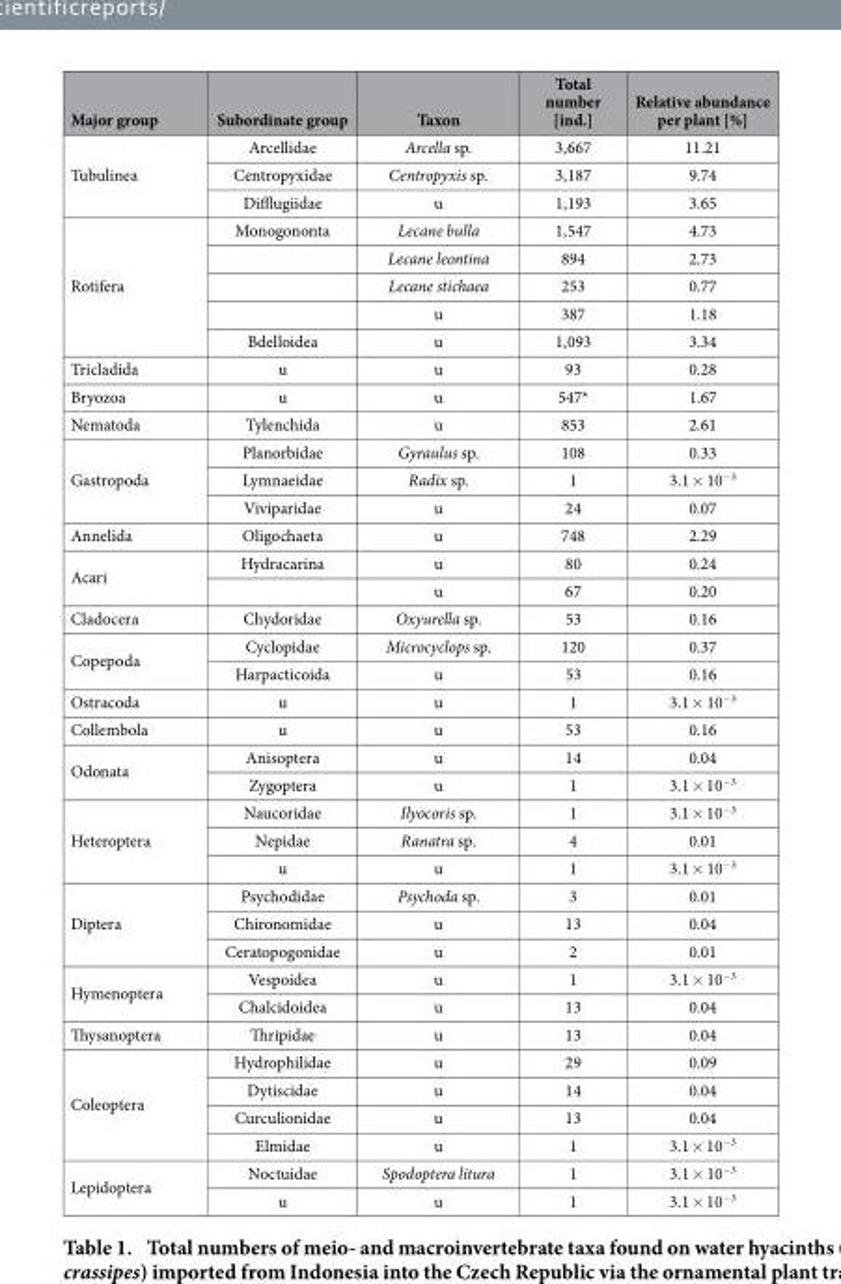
<table><thead><tr><td>Major group</td><td>Subordinate group</td><td>Taxon</td><td>Total number [ind.]</td><td>Relative abundance per plant [%]</td></tr></thead><tbody><tr><td rowspan="3">Tubulinea</td><td>Arcellidae</td><td>Arcella sp.</td><td>3,667</td><td>11.21</td></tr><tr><td>Centropyxidae</td><td>Centropyxis sp.</td><td>3,187</td><td>9.74</td></tr><tr><td>Difflugiidae</td><td>u</td><td>1,193</td><td>3.65</td></tr><tr><td rowspan="5">Rotifera</td><td>Monogononta</td><td>Lecane bulla</td><td>1,547</td><td>4.73</td></tr><tr><td></td><td>Lecane leontina</td><td>894</td><td>2.73</td></tr><tr><td></td><td>Lecane stichaea</td><td>253</td><td>0.77</td></tr><tr><td></td><td>u</td><td>387</td><td>1.18</td></tr><tr><td>Bdelloidea</td><td>u</td><td>1,093</td><td>3.34</td></tr><tr><td>Tricladida</td><td>u</td><td>u</td><td>93</td><td>0.28</td></tr><tr><td>Bryozoa</td><td>u</td><td>u</td><td>547*</td><td>1.67</td></tr><tr><td>Nematoda</td><td>Tylenchida</td><td>u</td><td>853</td><td>2.61</td></tr><tr><td rowspan="3">Gastropoda</td><td>Planorbidae</td><td>Gyraulus sp.</td><td>108</td><td>0.33</td></tr><tr><td>Lymnaeidae</td><td>Radix sp.</td><td>1</td><td>3.1 × 10<sup>−3</sup></td></tr><tr><td>Viviparidae</td><td>u</td><td>24</td><td>0.07</td></tr><tr><td>Annelida</td><td>Oligochaeta</td><td>u</td><td>748</td><td>2.29</td></tr><tr><td rowspan="2">Acari</td><td>Hydracarina</td><td>u</td><td>80</td><td>0.24</td></tr><tr><td></td><td>u</td><td>67</td><td>0.20</td></tr><tr><td>Cladocera</td><td>Chydoridae</td><td>Oxyurella sp.</td><td>53</td><td>0.16</td></tr><tr><td rowspan="2">Copepoda</td><td>Cyclopidae</td><td>Microcyclops sp.</td><td>120</td><td>0.37</td></tr><tr><td>Harpacticoida</td><td>u</td><td>53</td><td>0.16</td></tr><tr><td>Ostracoda</td><td>u</td><td>u</td><td>1</td><td>3.1 × 10<sup>−3</sup></td></tr><tr><td>Collembola</td><td>u</td><td>u</td><td>53</td><td>0.16</td></tr><tr><td rowspan="2">Odonata</td><td>Anisoptera</td><td>u</td><td>14</td><td>0.04</td></tr><tr><td>Zygoptera</td><td>u</td><td>1</td><td>3.1 × 10<sup>−3</sup></td></tr><tr><td rowspan="3">Heteroptera</td><td>Naucoridae</td><td>Ilyocoris sp.</td><td>1</td><td>3.1 × 10<sup>−3</sup></td></tr><tr><td>Nepidae</td><td>Ranatra sp.</td><td>4</td><td>0.01</td></tr><tr><td>u</td><td>u</td><td>1</td><td>3.1 × 10<sup>−3</sup></td></tr><tr><td rowspan="3">Diptera</td><td>Psychodidae</td><td>Psychoda sp.</td><td>3</td><td>0.01</td></tr><tr><td>Chironomidae</td><td>u</td><td>13</td><td>0.04</td></tr><tr><td>Ceratopogonidae</td><td>u</td><td>2</td><td>0.01</td></tr><tr><td rowspan="2">Hymenoptera</td><td>Vespoidea</td><td>u</td><td>1</td><td>3.1 × 10<sup>−3</sup></td></tr><tr><td>Chalcidoidea</td><td>u</td><td>13</td><td>0.04</td></tr><tr><td>Thysanoptera</td><td>Thripidae</td><td>u</td><td>13</td><td>0.04</td></tr><tr><td rowspan="4">Coleoptera</td><td>Hydrophilidae</td><td>u</td><td>29</td><td>0.09</td></tr><tr><td>Dytiscidae</td><td>u</td><td>14</td><td>0.04</td></tr><tr><td>Curculionidae</td><td>u</td><td>13</td><td>0.04</td></tr><tr><td>Elmidae</td><td>u</td><td>1</td><td>3.1 × 10<sup>−3</sup></td></tr><tr><td rowspan="2">Lepidoptera</td><td>Noctuidae</td><td>Spodoptera litura</td><td>1</td><td>3.1 × 10<sup>−3</sup></td></tr><tr><td>u</td><td>u</td><td>1</td><td>3.1 × 10<sup>−3</sup></td></tr></tbody></table>